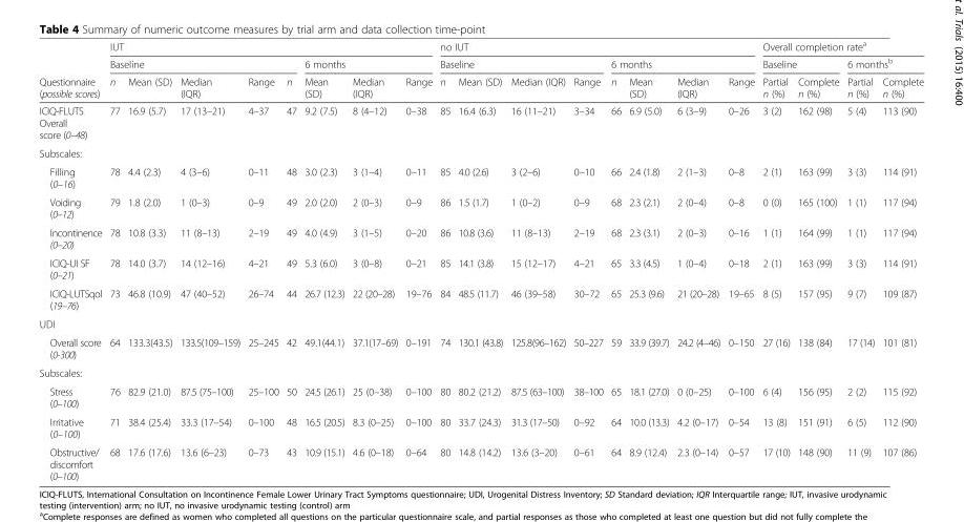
<table><thead><tr><td rowspan="3">Questionnaire (possible scores)</td><td colspan="8">IUT</td><td colspan="8">no IUT</td><td colspan="4">Overall completion rate<sup>a</sup></td></tr><tr><td colspan="5">Baseline</td><td colspan="3">6 months</td><td colspan="4">Baseline</td><td colspan="4">6 months</td><td colspan="2">Baseline</td><td colspan="2">6 months<sup>b</sup></td></tr><tr><td>n</td><td>Mean (SD)</td><td>Median (IQR)</td><td>Range</td><td>n</td><td>Mean (SD)</td><td>Median (IQR)</td><td>Range</td><td>n</td><td>Mean (SD)</td><td>Median (IQR)</td><td>Range</td><td>n</td><td>Mean (SD)</td><td>Median (IQR)</td><td>Range</td><td>Partial n (%)</td><td>Complete n (%)</td><td>Partial n (%)</td><td>Complete n (%)</td></tr></thead><tbody><tr><td>ICIQ-FLUTS Overall score (0–48)</td><td>77</td><td>16.9 (5.7)</td><td>17 (13–21)</td><td>4–37</td><td>47</td><td>9.2 (7.5)</td><td>8 (4–12)</td><td>0–38</td><td>85</td><td>16.4 (6.3)</td><td>16 (11–21)</td><td>3–34</td><td>66</td><td>6.9 (5.0)</td><td>6 (3–9)</td><td>0–26</td><td>3 (2)</td><td>162 (98)</td><td>5 (4)</td><td>113 (90)</td></tr><tr><td colspan="21">Subscales:</td></tr><tr><td>Filling (0–16)</td><td>78</td><td>4.4 (2.3)</td><td>4 (3–6)</td><td>0–11</td><td>48</td><td>3.0 (2.3)</td><td>3 (1–4)</td><td>0–11</td><td>85</td><td>4.0 (2.6)</td><td>3 (2–6)</td><td>0–10</td><td>66</td><td>2.4 (1.8)</td><td>2 (1–3)</td><td>0–8</td><td>2 (1)</td><td>163 (99)</td><td>3 (3)</td><td>114 (91)</td></tr><tr><td>Voiding (0–12)</td><td>79</td><td>1.8 (2.0)</td><td>1 (0–3)</td><td>0–9</td><td>49</td><td>2.0 (2.0)</td><td>2 (0–3)</td><td>0–9</td><td>86</td><td>1.5 (1.7)</td><td>1 (0–2)</td><td>0–9</td><td>68</td><td>2.3 (2.1)</td><td>2 (0–4)</td><td>0–8</td><td>0 (0)</td><td>165 (100)</td><td>1 (1)</td><td>117 (94)</td></tr><tr><td>Incontinence (0–20)</td><td>78</td><td>10.8 (3.3)</td><td>11 (8–13)</td><td>2–19</td><td>49</td><td>4.0 (4.9)</td><td>3 (1–5)</td><td>0–20</td><td>86</td><td>10.8 (3.6)</td><td>11 (8–13)</td><td>2–19</td><td>68</td><td>2.3 (3.1)</td><td>2 (0–3)</td><td>0–16</td><td>1 (1)</td><td>164 (99)</td><td>1 (1)</td><td>117 (94)</td></tr><tr><td>ICIQ-UI SF (0–21)</td><td>78</td><td>14.0 (3.7)</td><td>14 (12–16)</td><td>4–21</td><td>49</td><td>5.3 (6.0)</td><td>3 (0–8)</td><td>0–21</td><td>85</td><td>14.1 (3.8)</td><td>15 (12–17)</td><td>4–21</td><td>65</td><td>3.3 (4.5)</td><td>1 (0–4)</td><td>0–18</td><td>2 (1)</td><td>163 (99)</td><td>3 (3)</td><td>114 (91)</td></tr><tr><td>ICIQ-LUTSqol (19–76)</td><td>73</td><td>46.8 (10.9)</td><td>47 (40–52)</td><td>26–74</td><td>44</td><td>26.7 (12.3)</td><td>22 (20–28)</td><td>19–76</td><td>84</td><td>48.5 (11.7)</td><td>46 (39–58)</td><td>30–72</td><td>65</td><td>25.3 (9.6)</td><td>21 (20–28)</td><td>19–65</td><td>8 (5)</td><td>157 (95)</td><td>9 (7)</td><td>109 (87)</td></tr><tr><td colspan="21">UDI</td></tr><tr><td>Overall score (0-300)</td><td>64</td><td>133.3(43.5)</td><td>133.5(109–159)</td><td>25–245</td><td>42</td><td>49.1(44.1)</td><td>37.1(17–69)</td><td>0–191</td><td>74</td><td>130.1 (43.8)</td><td>125.8(96–162)</td><td>50–227</td><td>59</td><td>33.9 (39.7)</td><td>24.2 (4–46)</td><td>0–150</td><td>27 (16)</td><td>138 (84)</td><td>17 (14)</td><td>101 (81)</td></tr><tr><td colspan="21">Subscales:</td></tr><tr><td>Stress (0–100)</td><td>76</td><td>82.9 (21.0)</td><td>87.5 (75–100)</td><td>25–100</td><td>50</td><td>24.5 (26.1)</td><td>25 (0–38)</td><td>0–100</td><td>80</td><td>80.2 (21.2)</td><td>87.5 (63–100)</td><td>38–100</td><td>65</td><td>18.1 (27.0)</td><td>0 (0–25)</td><td>0–100</td><td>6 (4)</td><td>156 (95)</td><td>2 (2)</td><td>115 (92)</td></tr><tr><td>Irritative (0–100)</td><td>71</td><td>38.4 (25.4)</td><td>33.3 (17–54)</td><td>0–100</td><td>48</td><td>16.5 (20.5)</td><td>8.3 (0–25)</td><td>0–100</td><td>80</td><td>33.7 (24.3)</td><td>31.3 (17–50)</td><td>0–92</td><td>64</td><td>10.0 (13.3)</td><td>4.2 (0–17)</td><td>0–54</td><td>13 (8)</td><td>151 (91)</td><td>6 (5)</td><td>112 (90)</td></tr><tr><td>Obstructive/ discomfort (0–100)</td><td>68</td><td>17.6 (17.6)</td><td>13.6 (6–23)</td><td>0–73</td><td>43</td><td>10.9 (15.1)</td><td>4.6 (0–18)</td><td>0–64</td><td>80</td><td>14.8 (14.2)</td><td>13.6 (3–20)</td><td>0–61</td><td>64</td><td>8.9 (12.4)</td><td>2.3 (0–14)</td><td>0–57</td><td>17 (10)</td><td>148 (90)</td><td>11 (9)</td><td>107 (86)</td></tr></tbody></table>